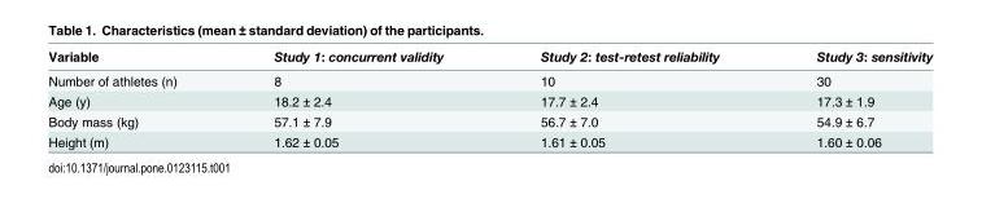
<table><thead><tr><td>Variable</td><td>Study 1: concurrent validity</td><td>Study 2: test-retest reliability</td><td>Study 3: sensitivity</td></tr></thead><tbody><tr><td>Number of athletes (n)</td><td>8</td><td>10</td><td>30</td></tr><tr><td>Age (y)</td><td>18.2 ± 2.4</td><td>17.7 ± 2.4</td><td>17.3 ± 1.9</td></tr><tr><td>Body mass (kg)</td><td>57.1 ± 7.9</td><td>56.7 ± 7.0</td><td>54.9 ± 6.7</td></tr><tr><td>Height (m)</td><td>1.62 ± 0.05</td><td>1.61 ± 0.05</td><td>1.60 ± 0.06</td></tr></tbody></table>